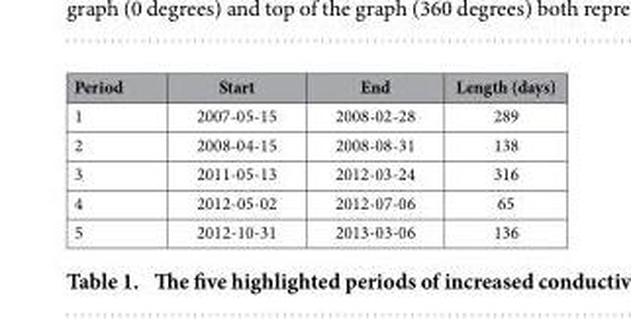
<table><thead><tr><td>Period</td><td>Start</td><td>End</td><td>Length (days)</td></tr></thead><tbody><tr><td>1</td><td>2007-05-15</td><td>2008-02-28</td><td>289</td></tr><tr><td>2</td><td>2008-04-15</td><td>2008-08-31</td><td>138</td></tr><tr><td>3</td><td>2011-05-13</td><td>2012-03-24</td><td>316</td></tr><tr><td>4</td><td>2012-05-02</td><td>2012-07-06</td><td>65</td></tr><tr><td>5</td><td>2012-10-31</td><td>2013-03-06</td><td>136</td></tr></tbody></table>